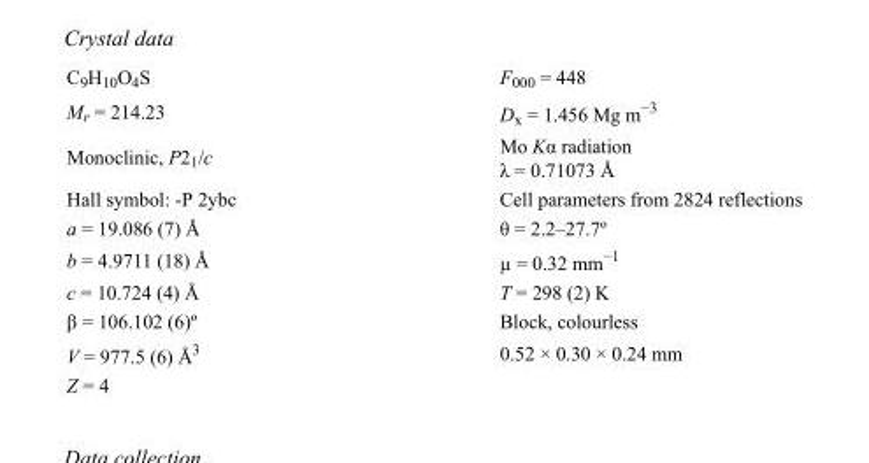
<table><tbody><tr><td>C<sub>9</sub>H<sub>10</sub>O<sub>4</sub>S</td><td>F<sub>000</sub> = 448</td></tr><tr><td>M<sub>r</sub> = 214.23</td><td>D<sub>x</sub> = 1.456 Mg m<sup>−3</sup></td></tr><tr><td>Monoclinic, P2<sub>1</sub>/c</td><td>Mo Kα radiation λ = 0.71073 Å</td></tr><tr><td>Hall symbol: -P 2ybc</td><td>Cell parameters from 2824 reflections</td></tr><tr><td>a = 19.086 (7) Å</td><td>θ = 2.2–27.7º</td></tr><tr><td>b = 4.9711 (18) Å</td><td>µ = 0.32 mm<sup>−1</sup></td></tr><tr><td>c = 10.724 (4) Å</td><td>T = 298 (2) K</td></tr><tr><td>β = 106.102 (6)º</td><td>Block, colourless</td></tr><tr><td>V = 977.5 (6) Å<sup>3</sup></td><td>0.52 × 0.30 × 0.24 mm</td></tr><tr><td>Z = 4</td><td></td></tr></tbody></table>